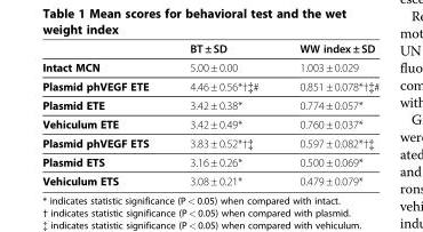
<table><thead><tr><td></td><td>BT ± SD</td><td>WW index ± SD</td></tr></thead><tbody><tr><td>Intact MCN</td><td>5.00 ± 0.00</td><td>1.003 ± 0.029</td></tr><tr><td>Plasmid phVEGF ETE</td><td>4.46 ± 0.56*†‡#</td><td>0.851 ± 0.078*†‡#</td></tr><tr><td>Plasmid ETE</td><td>3.42 ± 0.38*</td><td>0.774 ± 0.057*</td></tr><tr><td>Vehiculum ETE</td><td>3.42 ± 0.49*</td><td>0.760 ± 0.037*</td></tr><tr><td>Plasmid phVEGF ETS</td><td>3.83 ± 0.52*†‡</td><td>0.597 ± 0.082*†‡</td></tr><tr><td>Plasmid ETS</td><td>3.16 ± 0.26*</td><td>0.500 ± 0.069*</td></tr><tr><td>Vehiculum ETS</td><td>3.08 ± 0.21*</td><td>0.479 ± 0.079*</td></tr></tbody></table>